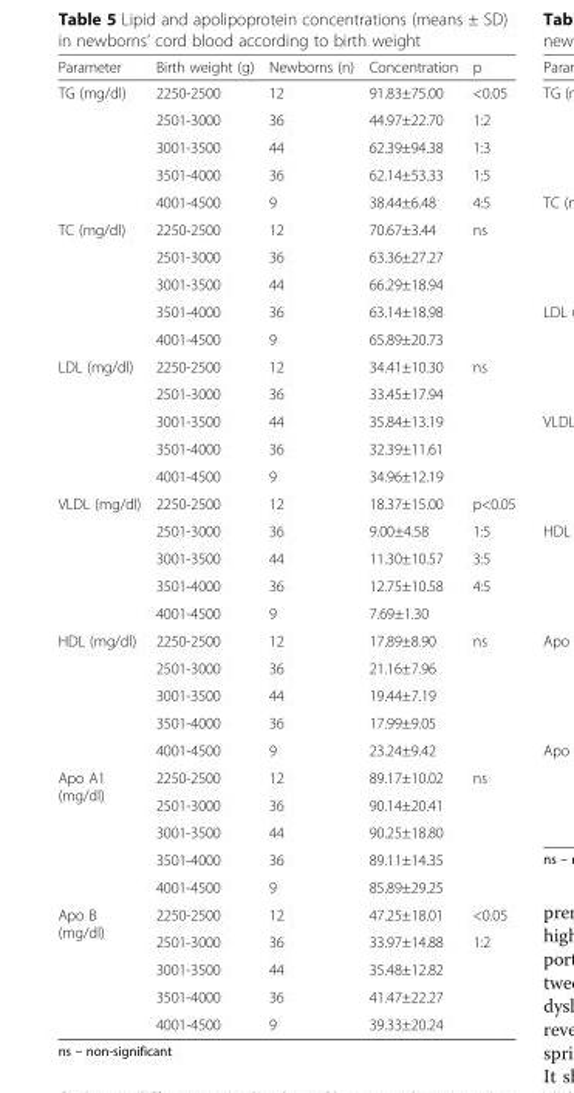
<table><thead><tr><td>Parameter</td><td>Birth weight (g)</td><td>Newborns (n)</td><td>Concentration</td><td>p</td></tr></thead><tbody><tr><td rowspan="5">TG (mg/dl)</td><td>2250-2500</td><td>12</td><td>91.83±75.00</td><td>&lt;0.05</td></tr><tr><td>2501-3000</td><td>36</td><td>44.97±22.70</td><td>1:2</td></tr><tr><td>3001-3500</td><td>44</td><td>62.39±94.38</td><td>1:3</td></tr><tr><td>3501-4000</td><td>36</td><td>62.14±53.33</td><td>1:5</td></tr><tr><td>4001-4500</td><td>9</td><td>38.44±6.48</td><td>4:5</td></tr><tr><td rowspan="5">TC (mg/dl)</td><td>2250-2500</td><td>12</td><td>70.67±3.44</td><td rowspan="5">ns</td></tr><tr><td>2501-3000</td><td>36</td><td>63.36±27.27</td></tr><tr><td>3001-3500</td><td>44</td><td>66.29±18.94</td></tr><tr><td>3501-4000</td><td>36</td><td>63.14±18.98</td></tr><tr><td>4001-4500</td><td>9</td><td>65.89±20.73</td></tr><tr><td rowspan="5">LDL (mg/dl)</td><td>2250-2500</td><td>12</td><td>34.41±10.30</td><td rowspan="5">ns</td></tr><tr><td>2501-3000</td><td>36</td><td>33.45±17.94</td></tr><tr><td>3001-3500</td><td>44</td><td>35.84±13.19</td></tr><tr><td>3501-4000</td><td>36</td><td>32.39±11.61</td></tr><tr><td>4001-4500</td><td>9</td><td>34.96±12.19</td></tr><tr><td rowspan="5">VLDL (mg/dl)</td><td>2250-2500</td><td>12</td><td>18.37±15.00</td><td>p&lt;0.05</td></tr><tr><td>2501-3000</td><td>36</td><td>9.00±4.58</td><td>1:5</td></tr><tr><td>3001-3500</td><td>44</td><td>11.30±10.57</td><td>3:5</td></tr><tr><td>3501-4000</td><td>36</td><td>12.75±10.58</td><td rowspan="2">4:5</td></tr><tr><td>4001-4500</td><td>9</td><td>7.69±1.30</td></tr><tr><td rowspan="5">HDL (mg/dl)</td><td>2250-2500</td><td>12</td><td>17.89±8.90</td><td rowspan="5">ns</td></tr><tr><td>2501-3000</td><td>36</td><td>21.16±7.96</td></tr><tr><td>3001-3500</td><td>44</td><td>19.44±7.19</td></tr><tr><td>3501-4000</td><td>36</td><td>17.99±9.05</td></tr><tr><td>4001-4500</td><td>9</td><td>23.24±9.42</td></tr><tr><td rowspan="5">Apo A1 (mg/dl)</td><td>2250-2500</td><td>12</td><td>89.17±10.02</td><td rowspan="5">ns</td></tr><tr><td>2501-3000</td><td>36</td><td>90.14±20.41</td></tr><tr><td>3001-3500</td><td>44</td><td>90.25±18.80</td></tr><tr><td>3501-4000</td><td>36</td><td>89.11±14.35</td></tr><tr><td>4001-4500</td><td>9</td><td>85.89±29.25</td></tr><tr><td rowspan="5">Apo B (mg/dl)</td><td>2250-2500</td><td>12</td><td>47.25±18.01</td><td>&lt;0.05</td></tr><tr><td>2501-3000</td><td>36</td><td>33.97±14.88</td><td rowspan="4">1:2</td></tr><tr><td>3001-3500</td><td>44</td><td>35.48±12.82</td></tr><tr><td>3501-4000</td><td>36</td><td>41.47±22.27</td></tr><tr><td>4001-4500</td><td>9</td><td>39.33±20.24</td></tr></tbody></table>